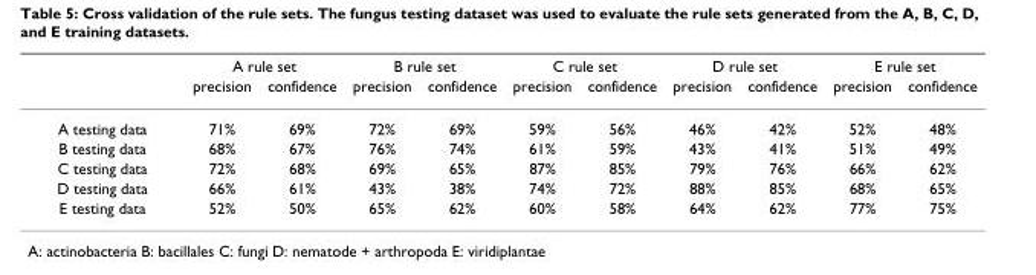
<table><thead><tr><td rowspan="2"></td><td colspan="2">A rule set</td><td colspan="2">B rule set</td><td colspan="2">C rule set</td><td colspan="2">D rule set</td><td colspan="2">E rule set</td></tr><tr><td>precision</td><td>confidence</td><td>precision</td><td>confidence</td><td>precision</td><td>confidence</td><td>precision</td><td>confidence</td><td>precision</td><td>confidence</td></tr></thead><tbody><tr><td>A testing data</td><td>71%</td><td>69%</td><td>72%</td><td>69%</td><td>59%</td><td>56%</td><td>46%</td><td>42%</td><td>52%</td><td>48%</td></tr><tr><td>B testing data</td><td>68%</td><td>67%</td><td>76%</td><td>74%</td><td>61%</td><td>59%</td><td>43%</td><td>41%</td><td>51%</td><td>49%</td></tr><tr><td>C testing data</td><td>72%</td><td>68%</td><td>69%</td><td>65%</td><td>87%</td><td>85%</td><td>79%</td><td>76%</td><td>66%</td><td>62%</td></tr><tr><td>D testing data</td><td>66%</td><td>61%</td><td>43%</td><td>38%</td><td>74%</td><td>72%</td><td>88%</td><td>85%</td><td>68%</td><td>65%</td></tr><tr><td>E testing data</td><td>52%</td><td>50%</td><td>65%</td><td>62%</td><td>60%</td><td>58%</td><td>64%</td><td>62%</td><td>77%</td><td>75%</td></tr></tbody></table>